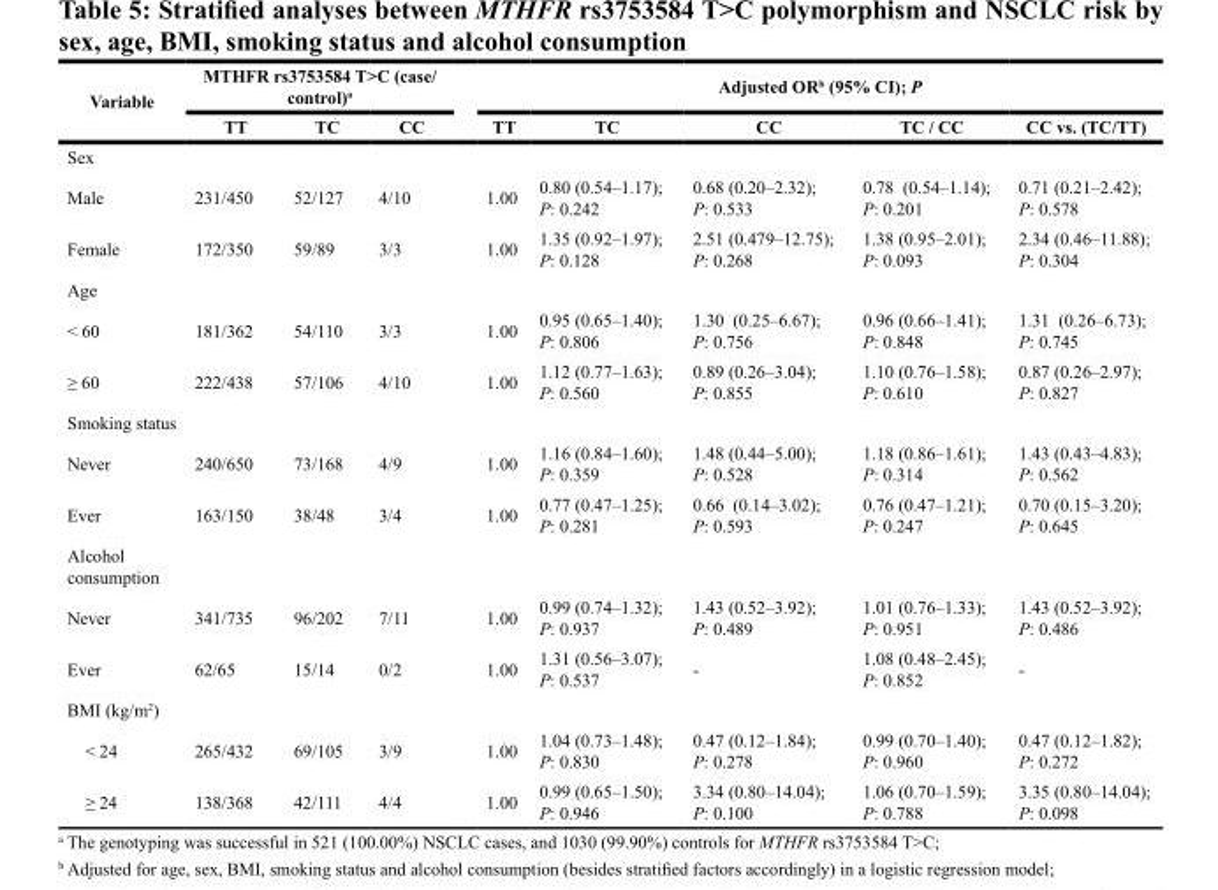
<table><thead><tr><td rowspan="2">Variable</td><td colspan="3">MTHFR rs3753584 T&gt;C (case/ control)<sup>a</sup></td><td colspan="5">Adjusted OR<sup>b</sup> (95% CI); P</td></tr><tr><td>TT</td><td>TC</td><td>CC</td><td>TT</td><td>TC</td><td>CC</td><td>TC / CC</td><td>CC vs. (TC/TT)</td></tr></thead><tbody><tr><td colspan="9">Sex</td></tr><tr><td>Male</td><td>231/450</td><td>52/127</td><td>4/10</td><td>1.00</td><td>0.80 (0.54–1.17); P: 0.242</td><td>0.68 (0.20–2.32); P: 0.533</td><td>0.78 (0.54–1.14); P: 0.201</td><td>0.71 (0.21–2.42); P: 0.578</td></tr><tr><td>Female</td><td>172/350</td><td>59/89</td><td>3/3</td><td>1.00</td><td>1.35 (0.92–1.97); P: 0.128</td><td>2.51 (0.479–12.75); P: 0.268</td><td>1.38 (0.95–2.01); P: 0.093</td><td>2.34 (0.46–11.88); P: 0.304</td></tr><tr><td colspan="9">Age</td></tr><tr><td>&lt; 60</td><td>181/362</td><td>54/110</td><td>3/3</td><td>1.00</td><td>0.95 (0.65–1.40); P: 0.806</td><td>1.30 (0.25–6.67); P: 0.756</td><td>0.96 (0.66–1.41); P: 0.848</td><td>1.31 (0.26–6.73); P: 0.745</td></tr><tr><td>≥ 60</td><td>222/438</td><td>57/106</td><td>4/10</td><td>1.00</td><td>1.12 (0.77–1.63); P: 0.560</td><td>0.89 (0.26–3.04); P: 0.855</td><td>1.10 (0.76–1.58); P: 0.610</td><td>0.87 (0.26–2.97); P: 0.827</td></tr><tr><td colspan="9">Smoking status</td></tr><tr><td>Never</td><td>240/650</td><td>73/168</td><td>4/9</td><td>1.00</td><td>1.16 (0.84–1.60); P: 0.359</td><td>1.48 (0.44–5.00); P: 0.528</td><td>1.18 (0.86–1.61); P: 0.314</td><td>1.43 (0.43–4.83); P: 0.562</td></tr><tr><td>Ever</td><td>163/150</td><td>38/48</td><td>3/4</td><td>1.00</td><td>0.77 (0.47–1.25); P: 0.281</td><td>0.66 (0.14–3.02); P: 0.593</td><td>0.76 (0.47–1.21); P: 0.247</td><td>0.70 (0.15–3.20); P: 0.645</td></tr><tr><td colspan="9">Alcohol consumption</td></tr><tr><td>Never</td><td>341/735</td><td>96/202</td><td>7/11</td><td>1.00</td><td>0.99 (0.74–1.32); P: 0.937</td><td>1.43 (0.52–3.92); P: 0.489</td><td>1.01 (0.76–1.33); P: 0.951</td><td>1.43 (0.52–3.92); P: 0.486</td></tr><tr><td>Ever</td><td>62/65</td><td>15/14</td><td>0/2</td><td>1.00</td><td>1.31 (0.56–3.07); P: 0.537</td><td>-</td><td>1.08 (0.48–2.45); P: 0.852</td><td>-</td></tr><tr><td colspan="9">BMI (kg/m<sup>2</sup>)</td></tr><tr><td>&lt; 24</td><td>265/432</td><td>69/105</td><td>3/9</td><td>1.00</td><td>1.04 (0.73–1.48); P: 0.830</td><td>0.47 (0.12–1.84); P: 0.278</td><td>0.99 (0.70–1.40); P: 0.960</td><td>0.47 (0.12–1.82); P: 0.272</td></tr><tr><td>≥ 24</td><td>138/368</td><td>42/111</td><td>4/4</td><td>1.00</td><td>0.99 (0.65–1.50); P: 0.946</td><td>3.34 (0.80–14.04); P: 0.100</td><td>1.06 (0.70–1.59); P: 0.788</td><td>3.35 (0.80–14.04); P: 0.098</td></tr></tbody></table>